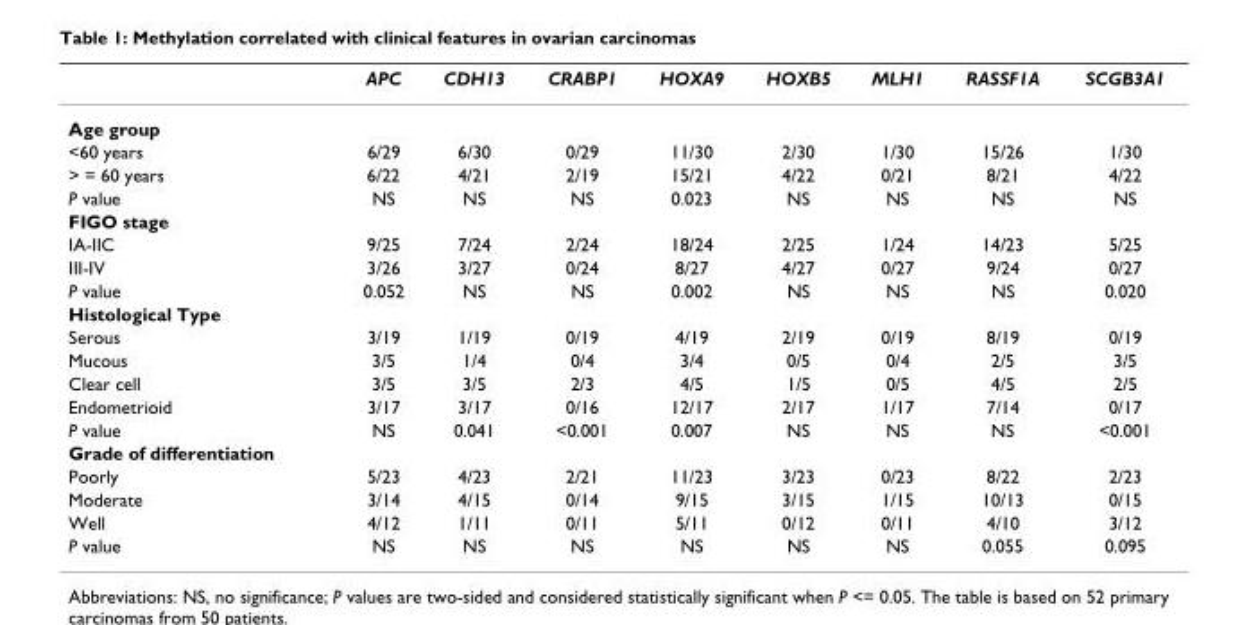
<table><thead><tr><td></td><td>APC</td><td>CDH13</td><td>CRABP1</td><td>HOXA9</td><td>HOXB5</td><td>MLH1</td><td>RASSF1A</td><td>SCGB3A1</td></tr></thead><tbody><tr><td colspan="9">Age group</td></tr><tr><td>&lt;60 years</td><td>6/29</td><td>6/30</td><td>0/29</td><td>11/30</td><td>2/30</td><td>1/30</td><td>15/26</td><td>1/30</td></tr><tr><td>&gt; = 60 years</td><td>6/22</td><td>4/21</td><td>2/19</td><td>15/21</td><td>4/22</td><td>0/21</td><td>8/21</td><td>4/22</td></tr><tr><td>P value</td><td>NS</td><td>NS</td><td>NS</td><td>0.023</td><td>NS</td><td>NS</td><td>NS</td><td>NS</td></tr><tr><td colspan="9">FIGO stage</td></tr><tr><td>IA-IIC</td><td>9/25</td><td>7/24</td><td>2/24</td><td>18/24</td><td>2/25</td><td>1/24</td><td>14/23</td><td>5/25</td></tr><tr><td>III-IV</td><td>3/26</td><td>3/27</td><td>0/24</td><td>8/27</td><td>4/27</td><td>0/27</td><td>9/24</td><td>0/27</td></tr><tr><td>P value</td><td>0.052</td><td>NS</td><td>NS</td><td>0.002</td><td>NS</td><td>NS</td><td>NS</td><td>0.020</td></tr><tr><td colspan="9">Histological Type</td></tr><tr><td>Serous</td><td>3/19</td><td>1/19</td><td>0/19</td><td>4/19</td><td>2/19</td><td>0/19</td><td>8/19</td><td>0/19</td></tr><tr><td>Mucous</td><td>3/5</td><td>1/4</td><td>0/4</td><td>3/4</td><td>0/5</td><td>0/4</td><td>2/5</td><td>3/5</td></tr><tr><td>Clear cell</td><td>3/5</td><td>3/5</td><td>2/3</td><td>4/5</td><td>1/5</td><td>0/5</td><td>4/5</td><td>2/5</td></tr><tr><td>Endometrioid</td><td>3/17</td><td>3/17</td><td>0/16</td><td>12/17</td><td>2/17</td><td>1/17</td><td>7/14</td><td>0/17</td></tr><tr><td>P value</td><td>NS</td><td>0.041</td><td>&lt;0.001</td><td>0.007</td><td>NS</td><td>NS</td><td>NS</td><td>&lt;0.001</td></tr><tr><td colspan="9">Grade of differentiation</td></tr><tr><td>Poorly</td><td>5/23</td><td>4/23</td><td>2/21</td><td>11/23</td><td>3/23</td><td>0/23</td><td>8/22</td><td>2/23</td></tr><tr><td>Moderate</td><td>3/14</td><td>4/15</td><td>0/14</td><td>9/15</td><td>3/15</td><td>1/15</td><td>10/13</td><td>0/15</td></tr><tr><td>Well</td><td>4/12</td><td>1/11</td><td>0/11</td><td>5/11</td><td>0/12</td><td>0/11</td><td>4/10</td><td>3/12</td></tr><tr><td>P value</td><td>NS</td><td>NS</td><td>NS</td><td>NS</td><td>NS</td><td>NS</td><td>0.055</td><td>0.095</td></tr></tbody></table>